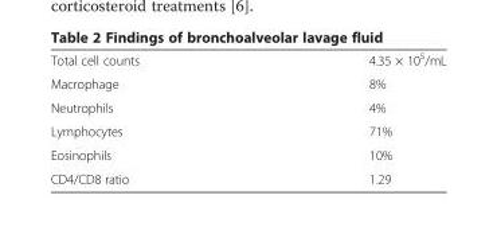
<table><tbody><tr><td>Total cell counts</td><td>4.35 × 10<sup>5</sup>/mL</td></tr><tr><td>Macrophage</td><td>8%</td></tr><tr><td>Neutrophils</td><td>4%</td></tr><tr><td>Lymphocytes</td><td>71%</td></tr><tr><td>Eosinophils</td><td>10%</td></tr><tr><td>CD4/CD8 ratio</td><td>1.29</td></tr></tbody></table>